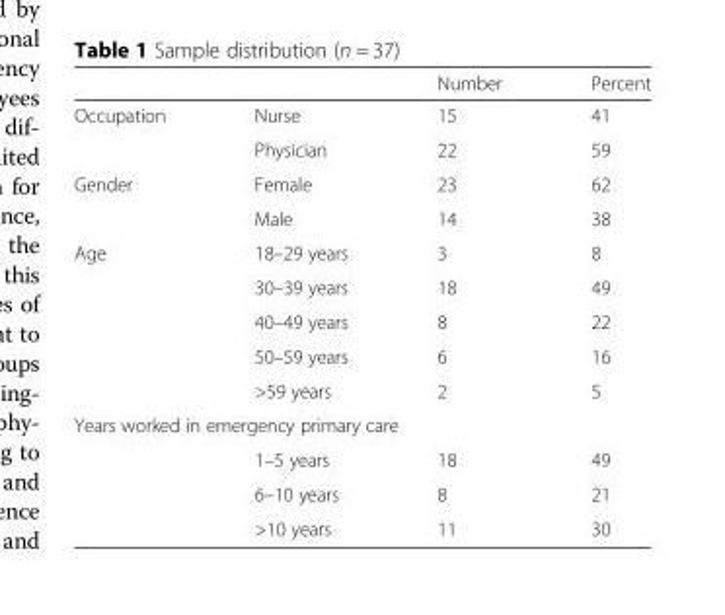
<table><thead><tr><td></td><td></td><td>Number</td><td>Percent</td></tr></thead><tbody><tr><td rowspan="2">Occupation</td><td>Nurse</td><td>15</td><td>41</td></tr><tr><td>Physician</td><td>22</td><td>59</td></tr><tr><td rowspan="2">Gender</td><td>Female</td><td>23</td><td>62</td></tr><tr><td>Male</td><td>14</td><td>38</td></tr><tr><td rowspan="5">Age</td><td>18–29 years</td><td>3</td><td>8</td></tr><tr><td>30–39 years</td><td>18</td><td>49</td></tr><tr><td>40–49 years</td><td>8</td><td>22</td></tr><tr><td>50–59 years</td><td>6</td><td>16</td></tr><tr><td>&gt;59 years</td><td>2</td><td>5</td></tr><tr><td colspan="4">Years worked in emergency primary care</td></tr><tr><td rowspan="3"></td><td>1–5 years</td><td>18</td><td>49</td></tr><tr><td>6–10 years</td><td>8</td><td>21</td></tr><tr><td>&gt;10 years</td><td>11</td><td>30</td></tr></tbody></table>